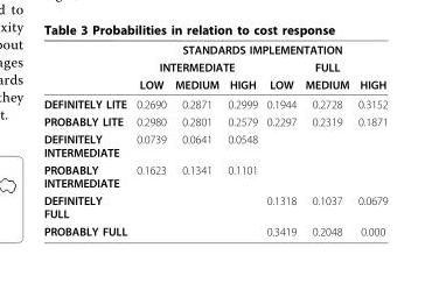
<table><thead><tr><td rowspan="3"></td><td colspan="6">STANDARDS IMPLEMENTATION</td></tr><tr><td colspan="3">INTERMEDIATE</td><td colspan="3">FULL</td></tr><tr><td>LOW</td><td>MEDIUM</td><td>HIGH</td><td>LOW</td><td>MEDIUM</td><td>HIGH</td></tr></thead><tbody><tr><td>DEFINITELY LITE</td><td>0.2690</td><td>0.2871</td><td>0.2999</td><td>0.1944</td><td>0.2728</td><td>0.3152</td></tr><tr><td>PROBABLY LITE</td><td>0.2980</td><td>0.2801</td><td>0.2579</td><td>0.2297</td><td>0.2319</td><td>0.1871</td></tr><tr><td>DEFINITELY INTERMEDIATE</td><td>0.0739</td><td>0.0641</td><td>0.0548</td><td></td><td></td><td></td></tr><tr><td>PROBABLY INTERMEDIATE</td><td>0.1623</td><td>0.1341</td><td>0.1101</td><td></td><td></td><td></td></tr><tr><td>DEFINITELY FULL</td><td></td><td></td><td></td><td>0.1318</td><td>0.1037</td><td>0.0679</td></tr><tr><td>PROBABLY FULL</td><td></td><td></td><td></td><td>0.3419</td><td>0.2048</td><td>0.000</td></tr></tbody></table>